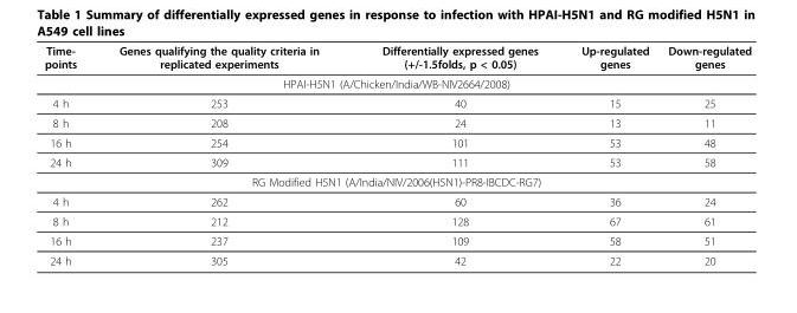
<table><thead><tr><td>Time- points</td><td>Genes qualifying the quality criteria in replicated experiments</td><td>Differentially expressed genes (+/-1.5folds, p &lt; 0.05)</td><td>Up-regulated genes</td><td>Down-regulated genes</td></tr></thead><tbody><tr><td colspan="5">HPAI-H5N1 (A/Chicken/India/WB-NIV2664/2008)</td></tr><tr><td>4 h</td><td>253</td><td>40</td><td>15</td><td>25</td></tr><tr><td>8 h</td><td>208</td><td>24</td><td>13</td><td>11</td></tr><tr><td>16 h</td><td>254</td><td>101</td><td>53</td><td>48</td></tr><tr><td>24 h</td><td>309</td><td>111</td><td>53</td><td>58</td></tr><tr><td colspan="5">RG Modified H5N1 (A/India/NIV/2006(H5N1)-PR8-IBCDC-RG7)</td></tr><tr><td>4 h</td><td>262</td><td>60</td><td>36</td><td>24</td></tr><tr><td>8 h</td><td>212</td><td>128</td><td>67</td><td>61</td></tr><tr><td>16 h</td><td>237</td><td>109</td><td>58</td><td>51</td></tr><tr><td>24 h</td><td>305</td><td>42</td><td>22</td><td>20</td></tr></tbody></table>